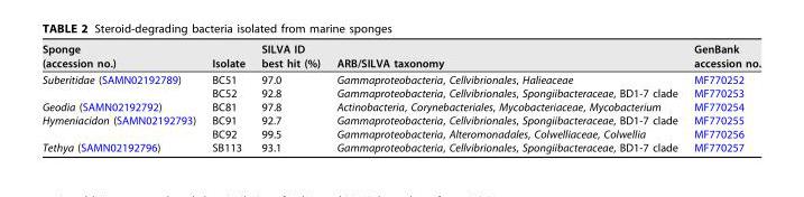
<table><thead><tr><td>Sponge (accession no.)</td><td>Isolate</td><td>SILVA ID best hit (%)</td><td>ARB/SILVA taxonomy</td><td>GenBank accession no.</td></tr></thead><tbody><tr><td rowspan="2">Suberitidae (SAMN02192789)</td><td>BC51</td><td>97.0</td><td>Gammaproteobacteria, Cellvibrionales, Halieaceae</td><td>MF770252</td></tr><tr><td>BC52</td><td>92.8</td><td>Gammaproteobacteria, Cellvibrionales, Spongiibacteraceae, BD1-7 clade</td><td>MF770253</td></tr><tr><td>Geodia (SAMN02192792)</td><td>BC81</td><td>97.8</td><td>Actinobacteria, Corynebacteriales, Mycobacteriaceae, Mycobacterium</td><td>MF770254</td></tr><tr><td rowspan="2">Hymeniacidon (SAMN02192793)</td><td>BC91</td><td>92.7</td><td>Gammaproteobacteria, Cellvibrionales, Spongiibacteraceae, BD1-7 clade</td><td>MF770255</td></tr><tr><td>BC92</td><td>99.5</td><td>Gammaproteobacteria, Alteromonadales, Colwelliaceae, Colwellia</td><td>MF770256</td></tr><tr><td>Tethya (SAMN02192796)</td><td>SB113</td><td>93.1</td><td>Gammaproteobacteria, Cellvibrionales, Spongiibacteraceae, BD1-7 clade</td><td>MF770257</td></tr></tbody></table>